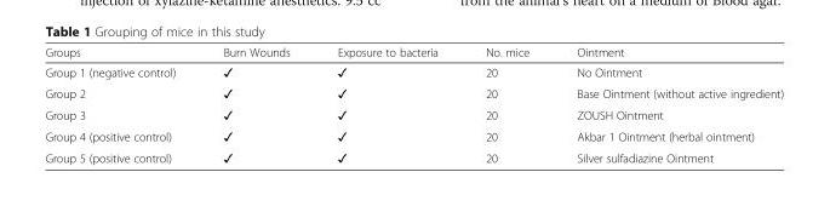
<table><thead><tr><td>Groups</td><td>Burn Wounds</td><td>Exposure to bacteria</td><td>No. mice</td><td>Ointment</td></tr></thead><tbody><tr><td>Group 1 (negative control)</td><td>✓</td><td>✓</td><td>20</td><td>No Ointment</td></tr><tr><td>Group 2</td><td>✓</td><td>✓</td><td>20</td><td>Base Ointment (without active ingredient)</td></tr><tr><td>Group 3</td><td>✓</td><td>✓</td><td>20</td><td>ZOUSH Ointment</td></tr><tr><td>Group 4 (positive control)</td><td>✓</td><td>✓</td><td>20</td><td>Akbar 1 Ointment (herbal ointment)</td></tr><tr><td>Group 5 (positive control)</td><td>✓</td><td>✓</td><td>20</td><td>Silver sulfadiazine Ointment</td></tr></tbody></table>